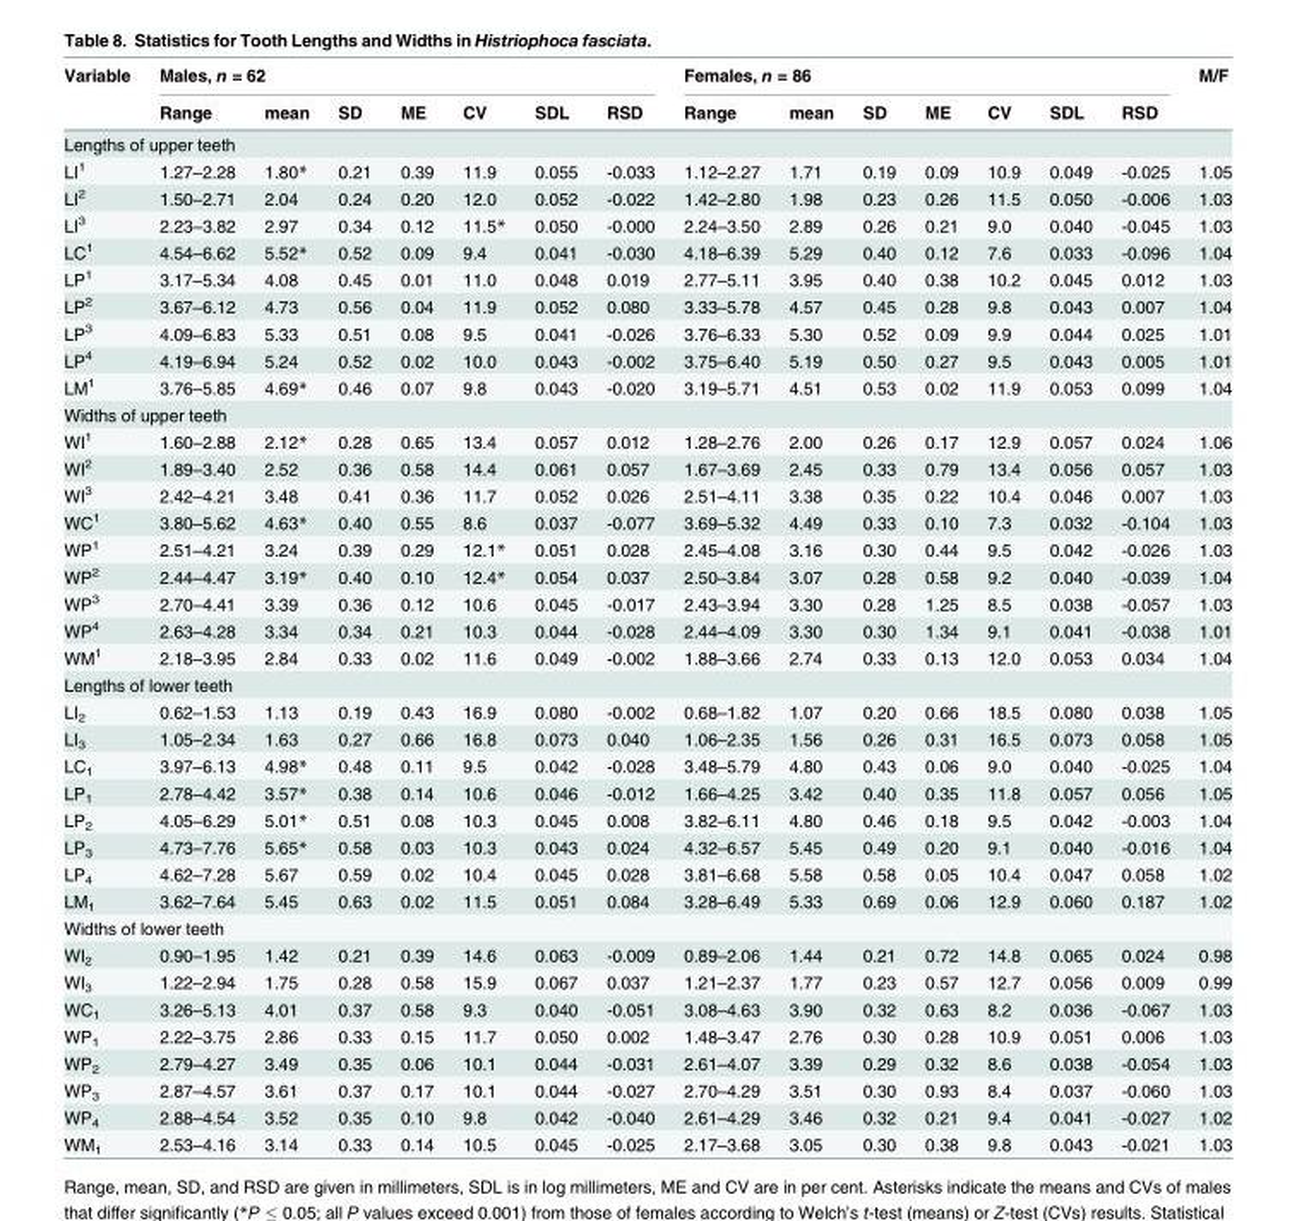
<table><thead><tr><td rowspan="2">Variable</td><td colspan="7">Males, n = 62</td><td colspan="7">Females, n = 86</td><td rowspan="2">M/F</td></tr><tr><td>Range</td><td>mean</td><td>SD</td><td>ME</td><td>CV</td><td>SDL</td><td>RSD</td><td>Range</td><td>mean</td><td>SD</td><td>ME</td><td>CV</td><td>SDL</td><td>RSD</td></tr></thead><tbody><tr><td colspan="16">Lengths of upper teeth</td></tr><tr><td>LI<sup>1</sup></td><td>1.27–2.28</td><td>1.80*</td><td>0.21</td><td>0.39</td><td>11.9</td><td>0.055</td><td>-0.033</td><td>1.12–2.27</td><td>1.71</td><td>0.19</td><td>0.09</td><td>10.9</td><td>0.049</td><td>-0.025</td><td>1.05</td></tr><tr><td>LI<sup>2</sup></td><td>1.50–2.71</td><td>2.04</td><td>0.24</td><td>0.20</td><td>12.0</td><td>0.052</td><td>-0.022</td><td>1.42–2.80</td><td>1.98</td><td>0.23</td><td>0.26</td><td>11.5</td><td>0.050</td><td>-0.006</td><td>1.03</td></tr><tr><td>LI<sup>3</sup></td><td>2.23–3.82</td><td>2.97</td><td>0.34</td><td>0.12</td><td>11.5*</td><td>0.050</td><td>-0.000</td><td>2.24–3.50</td><td>2.89</td><td>0.26</td><td>0.21</td><td>9.0</td><td>0.040</td><td>-0.045</td><td>1.03</td></tr><tr><td>LC<sup>1</sup></td><td>4.54–6.62</td><td>5.52*</td><td>0.52</td><td>0.09</td><td>9.4</td><td>0.041</td><td>-0.030</td><td>4.18–6.39</td><td>5.29</td><td>0.40</td><td>0.12</td><td>7.6</td><td>0.033</td><td>-0.096</td><td>1.04</td></tr><tr><td>LP<sup>1</sup></td><td>3.17–5.34</td><td>4.08</td><td>0.45</td><td>0.01</td><td>11.0</td><td>0.048</td><td>0.019</td><td>2.77–5.11</td><td>3.95</td><td>0.40</td><td>0.38</td><td>10.2</td><td>0.045</td><td>0.012</td><td>1.03</td></tr><tr><td>LP<sup>2</sup></td><td>3.67–6.12</td><td>4.73</td><td>0.56</td><td>0.04</td><td>11.9</td><td>0.052</td><td>0.080</td><td>3.33–5.78</td><td>4.57</td><td>0.45</td><td>0.28</td><td>9.8</td><td>0.043</td><td>0.007</td><td>1.04</td></tr><tr><td>LP<sup>3</sup></td><td>4.09–6.83</td><td>5.33</td><td>0.51</td><td>0.08</td><td>9.5</td><td>0.041</td><td>-0.026</td><td>3.76–6.33</td><td>5.30</td><td>0.52</td><td>0.09</td><td>9.9</td><td>0.044</td><td>0.025</td><td>1.01</td></tr><tr><td>LP<sup>4</sup></td><td>4.19–6.94</td><td>5.24</td><td>0.52</td><td>0.02</td><td>10.0</td><td>0.043</td><td>-0.002</td><td>3.75–6.40</td><td>5.19</td><td>0.50</td><td>0.27</td><td>9.5</td><td>0.043</td><td>0.005</td><td>1.01</td></tr><tr><td>LM<sup>1</sup></td><td>3.76–5.85</td><td>4.69*</td><td>0.46</td><td>0.07</td><td>9.8</td><td>0.043</td><td>-0.020</td><td>3.19–5.71</td><td>4.51</td><td>0.53</td><td>0.02</td><td>11.9</td><td>0.053</td><td>0.099</td><td>1.04</td></tr><tr><td colspan="16">Widths of upper teeth</td></tr><tr><td>WI<sup>1</sup></td><td>1.60–2.88</td><td>2.12*</td><td>0.28</td><td>0.65</td><td>13.4</td><td>0.057</td><td>0.012</td><td>1.28–2.76</td><td>2.00</td><td>0.26</td><td>0.17</td><td>12.9</td><td>0.057</td><td>0.024</td><td>1.06</td></tr><tr><td>WI<sup>2</sup></td><td>1.89–3.40</td><td>2.52</td><td>0.36</td><td>0.58</td><td>14.4</td><td>0.061</td><td>0.057</td><td>1.67–3.69</td><td>2.45</td><td>0.33</td><td>0.79</td><td>13.4</td><td>0.056</td><td>0.057</td><td>1.03</td></tr><tr><td>WI<sup>3</sup></td><td>2.42–4.21</td><td>3.48</td><td>0.41</td><td>0.36</td><td>11.7</td><td>0.052</td><td>0.026</td><td>2.51–4.11</td><td>3.38</td><td>0.35</td><td>0.22</td><td>10.4</td><td>0.046</td><td>0.007</td><td>1.03</td></tr><tr><td>WC<sup>1</sup></td><td>3.80–5.62</td><td>4.63*</td><td>0.40</td><td>0.55</td><td>8.6</td><td>0.037</td><td>-0.077</td><td>3.69–5.32</td><td>4.49</td><td>0.33</td><td>0.10</td><td>7.3</td><td>0.032</td><td>-0.104</td><td>1.03</td></tr><tr><td>WP<sup>1</sup></td><td>2.51–4.21</td><td>3.24</td><td>0.39</td><td>0.29</td><td>12.1*</td><td>0.051</td><td>0.028</td><td>2.45–4.08</td><td>3.16</td><td>0.30</td><td>0.44</td><td>9.5</td><td>0.042</td><td>-0.026</td><td>1.03</td></tr><tr><td>WP<sup>2</sup></td><td>2.44–4.47</td><td>3.19*</td><td>0.40</td><td>0.10</td><td>12.4*</td><td>0.054</td><td>0.037</td><td>2.50–3.84</td><td>3.07</td><td>0.28</td><td>0.58</td><td>9.2</td><td>0.040</td><td>-0.039</td><td>1.04</td></tr><tr><td>WP<sup>3</sup></td><td>2.70–4.41</td><td>3.39</td><td>0.36</td><td>0.12</td><td>10.6</td><td>0.045</td><td>-0.017</td><td>2.43–3.94</td><td>3.30</td><td>0.28</td><td>1.25</td><td>8.5</td><td>0.038</td><td>-0.057</td><td>1.03</td></tr><tr><td>WP<sup>4</sup></td><td>2.63–4.28</td><td>3.34</td><td>0.34</td><td>0.21</td><td>10.3</td><td>0.044</td><td>-0.028</td><td>2.44–4.09</td><td>3.30</td><td>0.30</td><td>1.34</td><td>9.1</td><td>0.041</td><td>-0.038</td><td>1.01</td></tr><tr><td>WM<sup>1</sup></td><td>2.18–3.95</td><td>2.84</td><td>0.33</td><td>0.02</td><td>11.6</td><td>0.049</td><td>-0.002</td><td>1.88–3.66</td><td>2.74</td><td>0.33</td><td>0.13</td><td>12.0</td><td>0.053</td><td>0.034</td><td>1.04</td></tr><tr><td colspan="16">Lengths of lower teeth</td></tr><tr><td>LI<sub>2</sub></td><td>0.62–1.53</td><td>1.13</td><td>0.19</td><td>0.43</td><td>16.9</td><td>0.080</td><td>-0.002</td><td>0.68–1.82</td><td>1.07</td><td>0.20</td><td>0.66</td><td>18.5</td><td>0.080</td><td>0.038</td><td>1.05</td></tr><tr><td>LI<sub>3</sub></td><td>1.05–2.34</td><td>1.63</td><td>0.27</td><td>0.66</td><td>16.8</td><td>0.073</td><td>0.040</td><td>1.06–2.35</td><td>1.56</td><td>0.26</td><td>0.31</td><td>16.5</td><td>0.073</td><td>0.058</td><td>1.05</td></tr><tr><td>LC<sub>1</sub></td><td>3.97–6.13</td><td>4.98*</td><td>0.48</td><td>0.11</td><td>9.5</td><td>0.042</td><td>-0.028</td><td>3.48–5.79</td><td>4.80</td><td>0.43</td><td>0.06</td><td>9.0</td><td>0.040</td><td>-0.025</td><td>1.04</td></tr><tr><td>LP<sub>1</sub></td><td>2.78–4.42</td><td>3.57*</td><td>0.38</td><td>0.14</td><td>10.6</td><td>0.046</td><td>-0.012</td><td>1.66–4.25</td><td>3.42</td><td>0.40</td><td>0.35</td><td>11.8</td><td>0.057</td><td>0.056</td><td>1.05</td></tr><tr><td>LP<sub>2</sub></td><td>4.05–6.29</td><td>5.01*</td><td>0.51</td><td>0.08</td><td>10.3</td><td>0.045</td><td>0.008</td><td>3.82–6.11</td><td>4.80</td><td>0.46</td><td>0.18</td><td>9.5</td><td>0.042</td><td>-0.003</td><td>1.04</td></tr><tr><td>LP<sub>3</sub></td><td>4.73–7.76</td><td>5.65*</td><td>0.58</td><td>0.03</td><td>10.3</td><td>0.043</td><td>0.024</td><td>4.32–6.57</td><td>5.45</td><td>0.49</td><td>0.20</td><td>9.1</td><td>0.040</td><td>-0.016</td><td>1.04</td></tr><tr><td>LP<sub>4</sub></td><td>4.62–7.28</td><td>5.67</td><td>0.59</td><td>0.02</td><td>10.4</td><td>0.045</td><td>0.028</td><td>3.81–6.68</td><td>5.58</td><td>0.58</td><td>0.05</td><td>10.4</td><td>0.047</td><td>0.058</td><td>1.02</td></tr><tr><td>LM<sub>1</sub></td><td>3.62–7.64</td><td>5.45</td><td>0.63</td><td>0.02</td><td>11.5</td><td>0.051</td><td>0.084</td><td>3.28–6.49</td><td>5.33</td><td>0.69</td><td>0.06</td><td>12.9</td><td>0.060</td><td>0.187</td><td>1.02</td></tr><tr><td colspan="16">Widths of lower teeth</td></tr><tr><td>WI<sub>2</sub></td><td>0.90–1.95</td><td>1.42</td><td>0.21</td><td>0.39</td><td>14.6</td><td>0.063</td><td>-0.009</td><td>0.89–2.06</td><td>1.44</td><td>0.21</td><td>0.72</td><td>14.8</td><td>0.065</td><td>0.024</td><td>0.98</td></tr><tr><td>WI<sub>3</sub></td><td>1.22–2.94</td><td>1.75</td><td>0.28</td><td>0.58</td><td>15.9</td><td>0.067</td><td>0.037</td><td>1.21–2.37</td><td>1.77</td><td>0.23</td><td>0.57</td><td>12.7</td><td>0.056</td><td>0.009</td><td>0.99</td></tr><tr><td>WC<sub>1</sub></td><td>3.26–5.13</td><td>4.01</td><td>0.37</td><td>0.58</td><td>9.3</td><td>0.040</td><td>-0.051</td><td>3.08–4.63</td><td>3.90</td><td>0.32</td><td>0.63</td><td>8.2</td><td>0.036</td><td>-0.067</td><td>1.03</td></tr><tr><td>WP<sub>1</sub></td><td>2.22–3.75</td><td>2.86</td><td>0.33</td><td>0.15</td><td>11.7</td><td>0.050</td><td>0.002</td><td>1.48–3.47</td><td>2.76</td><td>0.30</td><td>0.28</td><td>10.9</td><td>0.051</td><td>0.006</td><td>1.03</td></tr><tr><td>WP<sub>2</sub></td><td>2.79–4.27</td><td>3.49</td><td>0.35</td><td>0.06</td><td>10.1</td><td>0.044</td><td>-0.031</td><td>2.61–4.07</td><td>3.39</td><td>0.29</td><td>0.32</td><td>8.6</td><td>0.038</td><td>-0.054</td><td>1.03</td></tr><tr><td>WP<sub>3</sub></td><td>2.87–4.57</td><td>3.61</td><td>0.37</td><td>0.17</td><td>10.1</td><td>0.044</td><td>-0.027</td><td>2.70–4.29</td><td>3.51</td><td>0.30</td><td>0.93</td><td>8.4</td><td>0.037</td><td>-0.060</td><td>1.03</td></tr><tr><td>WP<sub>4</sub></td><td>2.88–4.54</td><td>3.52</td><td>0.35</td><td>0.10</td><td>9.8</td><td>0.042</td><td>-0.040</td><td>2.61–4.29</td><td>3.46</td><td>0.32</td><td>0.21</td><td>9.4</td><td>0.041</td><td>-0.027</td><td>1.02</td></tr><tr><td>WM<sub>1</sub></td><td>2.53–4.16</td><td>3.14</td><td>0.33</td><td>0.14</td><td>10.5</td><td>0.045</td><td>-0.025</td><td>2.17–3.68</td><td>3.05</td><td>0.30</td><td>0.38</td><td>9.8</td><td>0.043</td><td>-0.021</td><td>1.03</td></tr></tbody></table>